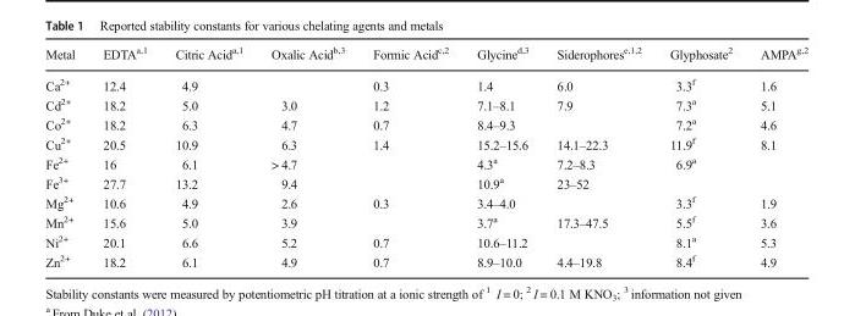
<table><thead><tr><td>Metal</td><td>EDTA<sup>a,1</sup></td><td>Citric Acid<sup>a,1</sup></td><td>Oxalic Acid<sup>b,3</sup></td><td>Formic Acid<sup>c,2</sup></td><td>Glycine<sup>d,3</sup></td><td>Siderophores<sup>e,1,2</sup></td><td>Glyphosate<sup>2</sup></td><td>AMPA<sup>g,2</sup></td></tr></thead><tbody><tr><td>Ca<sup>2+</sup></td><td>12.4</td><td>4.9</td><td></td><td>0.3</td><td>1.4</td><td>6.0</td><td>3.3<sup>f</sup></td><td>1.6</td></tr><tr><td>Cd<sup>2+</sup></td><td>18.2</td><td>5.0</td><td>3.0</td><td>1.2</td><td>7.1–8.1</td><td>7.9</td><td>7.3<sup>a</sup></td><td>5.1</td></tr><tr><td>Co<sup>2+</sup></td><td>18.2</td><td>6.3</td><td>4.7</td><td>0.7</td><td>8.4–9.3</td><td></td><td>7.2<sup>a</sup></td><td>4.6</td></tr><tr><td>Cu<sup>2+</sup></td><td>20.5</td><td>10.9</td><td>6.3</td><td>1.4</td><td>15.2–15.6</td><td>14.1–22.3</td><td>11.9<sup>f</sup></td><td>8.1</td></tr><tr><td>Fe<sup>2+</sup></td><td>16</td><td>6.1</td><td>&gt; 4.7</td><td></td><td>4.3<sup>a</sup></td><td>7.2–8.3</td><td>6.9<sup>a</sup></td><td></td></tr><tr><td>Fe<sup>3+</sup></td><td>27.7</td><td>13.2</td><td>9.4</td><td></td><td>10.9<sup>a</sup></td><td>23–52</td><td></td><td></td></tr><tr><td>Mg<sup>2+</sup></td><td>10.6</td><td>4.9</td><td>2.6</td><td>0.3</td><td>3.4–4.0</td><td></td><td>3.3<sup>f</sup></td><td>1.9</td></tr><tr><td>Mn<sup>2+</sup></td><td>15.6</td><td>5.0</td><td>3.9</td><td></td><td>3.7<sup>a</sup></td><td>17.3–47.5</td><td>5.5<sup>f</sup></td><td>3.6</td></tr><tr><td>Ni<sup>2+</sup></td><td>20.1</td><td>6.6</td><td>5.2</td><td>0.7</td><td>10.6–11.2</td><td></td><td>8.1<sup>a</sup></td><td>5.3</td></tr><tr><td>Zn<sup>2+</sup></td><td>18.2</td><td>6.1</td><td>4.9</td><td>0.7</td><td>8.9–10.0</td><td>4.4–19.8</td><td>8.4<sup>f</sup></td><td>4.9</td></tr></tbody></table>